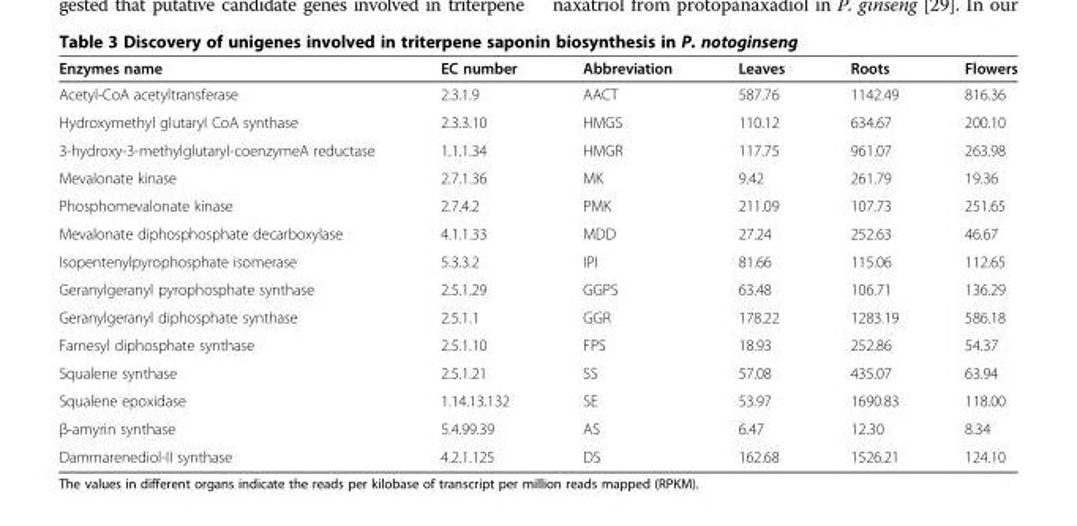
<table><thead><tr><td>Enzymes name</td><td>EC number</td><td>Abbreviation</td><td>Leaves</td><td>Roots</td><td>Flowers</td></tr></thead><tbody><tr><td>Acetyl-CoA acetyltransferase</td><td>2.3.1.9</td><td>AACT</td><td>587.76</td><td>1142.49</td><td>816.36</td></tr><tr><td>Hydroxymethyl glutaryl CoA synthase</td><td>2.3.3.10</td><td>HMGS</td><td>110.12</td><td>634.67</td><td>200.10</td></tr><tr><td>3-hydroxy-3-methylglutaryl-coenzymeA reductase</td><td>1.1.1.34</td><td>HMGR</td><td>117.75</td><td>961.07</td><td>263.98</td></tr><tr><td>Mevalonate kinase</td><td>2.7.1.36</td><td>MK</td><td>9.42</td><td>261.79</td><td>19.36</td></tr><tr><td>Phosphomevalonate kinase</td><td>2.7.4.2</td><td>PMK</td><td>211.09</td><td>107.73</td><td>251.65</td></tr><tr><td>Mevalonate diphosphosphate decarboxylase</td><td>4.1.1.33</td><td>MDD</td><td>27.24</td><td>252.63</td><td>46.67</td></tr><tr><td>Isopentenylpyrophosphate isomerase</td><td>5.3.3.2</td><td>IPI</td><td>81.66</td><td>115.06</td><td>112.65</td></tr><tr><td>Geranylgeranyl pyrophosphate synthase</td><td>2.5.1.29</td><td>GGPS</td><td>63.48</td><td>106.71</td><td>136.29</td></tr><tr><td>Geranylgeranyl diphosphate synthase</td><td>2.5.1.1</td><td>GGR</td><td>178.22</td><td>1283.19</td><td>586.18</td></tr><tr><td>Farnesyl diphosphate synthase</td><td>2.5.1.10</td><td>FPS</td><td>18.93</td><td>252.86</td><td>54.37</td></tr><tr><td>Squalene synthase</td><td>2.5.1.21</td><td>SS</td><td>57.08</td><td>435.07</td><td>63.94</td></tr><tr><td>Squalene epoxidase</td><td>1.14.13.132</td><td>SE</td><td>53.97</td><td>1690.83</td><td>118.00</td></tr><tr><td>β-amyrin synthase</td><td>5.4.99.39</td><td>AS</td><td>6.47</td><td>12.30</td><td>8.34</td></tr><tr><td>Dammarenediol-II synthase</td><td>4.2.1.125</td><td>DS</td><td>162.68</td><td>1526.21</td><td>124.10</td></tr></tbody></table>